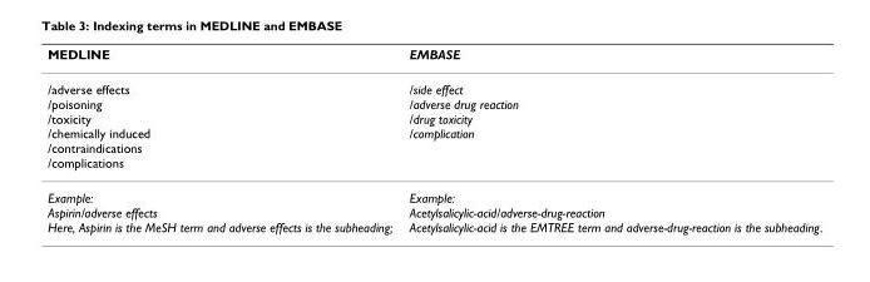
<table><thead><tr><td>MEDLINE</td><td>EMBASE</td></tr></thead><tbody><tr><td>/adverse effects /poisoning /toxicity /chemically induced /contraindications /complications</td><td>/side effect /adverse drug reaction /drug toxicity /complication</td></tr><tr><td>Example: Aspirin/adverse effects Here, Aspirin is the MeSH term and adverse effects is the subheading;</td><td>Example: Acetylsalicylic-acid/adverse-drug-reaction Acetylsalicylic-acid is the EMTREE term and adverse-drug-reaction is the subheading.</td></tr></tbody></table>